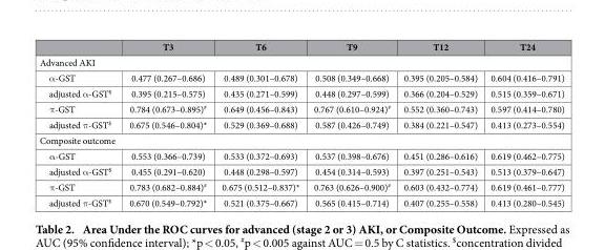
<table><thead><tr><td></td><td>T3</td><td>T6</td><td>T9</td><td>T12</td><td>T24</td></tr></thead><tbody><tr><td colspan="6">Advanced AKI</td></tr><tr><td>α -GST</td><td>0.477 (0.267–0.686)</td><td>0.489 (0.301–0.678)</td><td>0.508 (0.349–0.668)</td><td>0.395 (0.205–0.584)</td><td>0.604 (0.416–0.791)</td></tr><tr><td>adjusted α -GST<sup>$</sup></td><td>0.395 (0.215–0.575)</td><td>0.435 (0.271–0.599)</td><td>0.448 (0.297–0.599)</td><td>0.366 (0.204–0.529)</td><td>0.515 (0.359–0.671)</td></tr><tr><td>π -GST</td><td>0.784 (0.673–0.895)<sup>#</sup></td><td>0.649 (0.456–0.843)</td><td>0.767 (0.610–0.924)<sup>#</sup></td><td>0.552 (0.360–0.743)</td><td>0.597 (0.414–0.780)</td></tr><tr><td>adjusted π -GST<sup>$</sup></td><td>0.675 (0.546–0.804)*</td><td>0.529 (0.369–0.688)</td><td>0.587 (0.426–0.749)</td><td>0.384 (0.221–0.547)</td><td>0.413 (0.273–0.554)</td></tr><tr><td colspan="6">Composite outcome</td></tr><tr><td>α -GST</td><td>0.553 (0.366–0.739)</td><td>0.533 (0.372–0.693)</td><td>0.537 (0.398–0.676)</td><td>0.451 (0.286–0.616)</td><td>0.619 (0.462–0.775)</td></tr><tr><td>adjusted α -GST<sup>$</sup></td><td>0.455 (0.291–0.620)</td><td>0.448 (0.298–0.597)</td><td>0.454 (0.314–0.593)</td><td>0.397 (0.251–0.543)</td><td>0.513 (0.379–0.647)</td></tr><tr><td>π -GST</td><td>0.783 (0.682–0.884)<sup>#</sup></td><td>0.675 (0.512–0.837)*</td><td>0.763 (0.626–0.900)<sup>#</sup></td><td>0.603 (0.432–0.774)</td><td>0.619 (0.461–0.777)</td></tr><tr><td>adjusted π -GST<sup>$</sup></td><td>0.670 (0.549–0.792)*</td><td>0.521 (0.375–0.667)</td><td>0.565 (0.415–0.714)</td><td>0.407 (0.255–0.558)</td><td>0.413 (0.280–0.545)</td></tr></tbody></table>